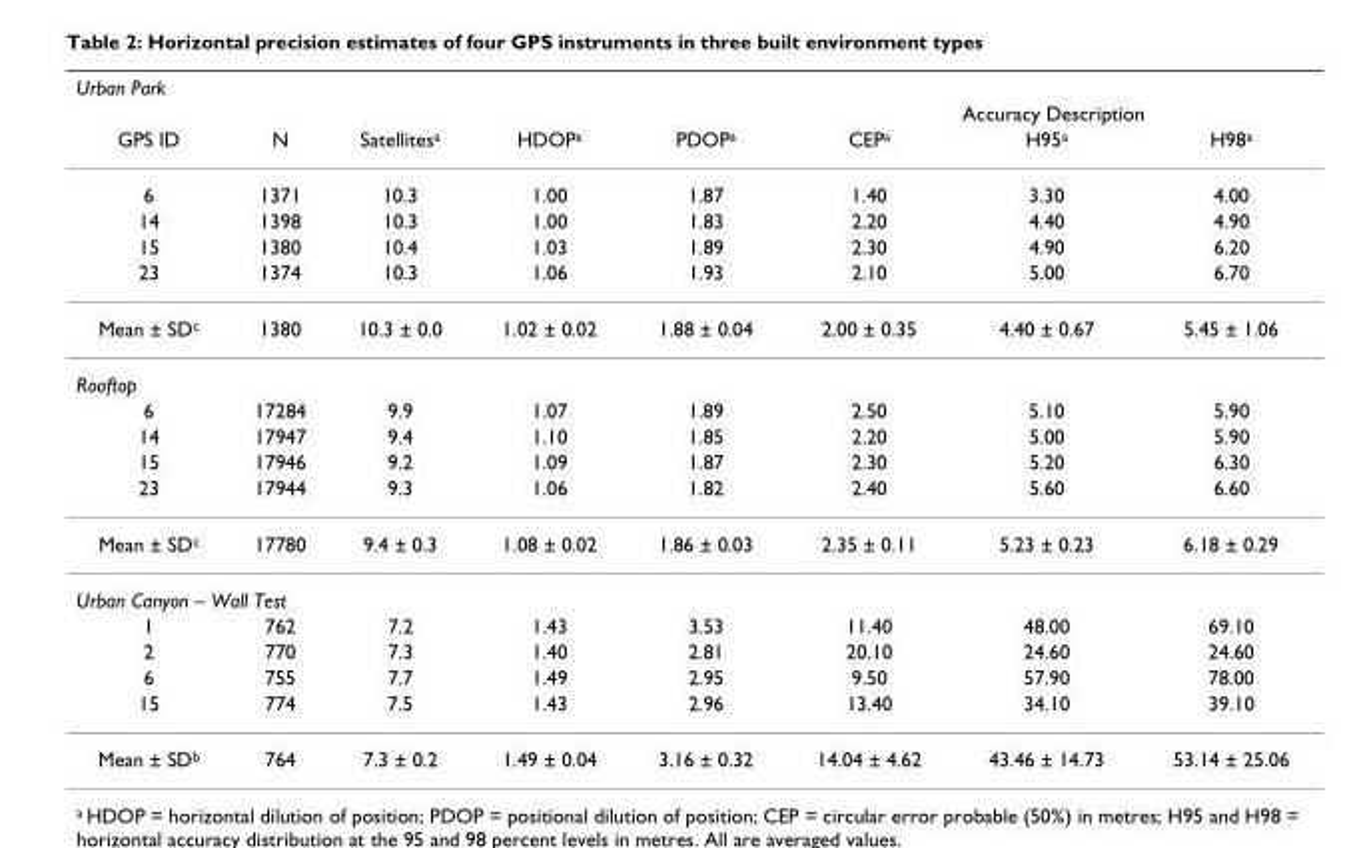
<table><thead><tr><td colspan="8">Urban Park</td></tr><tr><td rowspan="2">GPS ID</td><td rowspan="2">N</td><td rowspan="2">Satellites<sup>a</sup></td><td rowspan="2">HDOP<sup>a</sup></td><td rowspan="2">PDOP<sup>a</sup></td><td colspan="3">Accuracy Description</td></tr><tr><td>CEP<sup>a</sup></td><td>H95<sup>a</sup></td><td>H98<sup>a</sup></td></tr></thead><tbody><tr><td>6</td><td>1371</td><td>10.3</td><td>1.00</td><td>1.87</td><td>1.40</td><td>3.30</td><td>4.00</td></tr><tr><td>14</td><td>1398</td><td>10.3</td><td>1.00</td><td>1.83</td><td>2.20</td><td>4.40</td><td>4.90</td></tr><tr><td>15</td><td>1380</td><td>10.4</td><td>1.03</td><td>1.89</td><td>2.30</td><td>4.90</td><td>6.20</td></tr><tr><td>23</td><td>1374</td><td>10.3</td><td>1.06</td><td>1.93</td><td>2.10</td><td>5.00</td><td>6.70</td></tr><tr><td>Mean ± SD<sup>c</sup></td><td>1380</td><td>10.3 ± 0.0</td><td>1.02 ± 0.02</td><td>1.88 ± 0.04</td><td>2.00 ± 0.35</td><td>4.40 ± 0.67</td><td>5.45 ± 1.06</td></tr><tr><td colspan="8">Rooftop</td></tr><tr><td>6</td><td>17284</td><td>9.9</td><td>1.07</td><td>1.89</td><td>2.50</td><td>5.10</td><td>5.90</td></tr><tr><td>14</td><td>17947</td><td>9.4</td><td>1.10</td><td>1.85</td><td>2.20</td><td>5.00</td><td>5.90</td></tr><tr><td>15</td><td>17946</td><td>9.2</td><td>1.09</td><td>1.87</td><td>2.30</td><td>5.20</td><td>6.30</td></tr><tr><td>23</td><td>17944</td><td>9.3</td><td>1.06</td><td>1.82</td><td>2.40</td><td>5.60</td><td>6.60</td></tr><tr><td>Mean ± SD<sup>c</sup></td><td>17780</td><td>9.4 ± 0.3</td><td>1.08 ± 0.02</td><td>1.86 ± 0.03</td><td>2.35 ± 0.11</td><td>5.23 ± 0.23</td><td>6.18 ± 0.29</td></tr><tr><td colspan="8">Urban Canyon – Wall Test</td></tr><tr><td>1</td><td>762</td><td>7.2</td><td>1.43</td><td>3.53</td><td>11.40</td><td>48.00</td><td>69.10</td></tr><tr><td>2</td><td>770</td><td>7.3</td><td>1.40</td><td>2.81</td><td>20.10</td><td>24.60</td><td>24.60</td></tr><tr><td>6</td><td>755</td><td>7.7</td><td>1.49</td><td>2.95</td><td>9.50</td><td>57.90</td><td>78.00</td></tr><tr><td>15</td><td>774</td><td>7.5</td><td>1.43</td><td>2.96</td><td>13.40</td><td>34.10</td><td>39.10</td></tr><tr><td>Mean ± SD<sup>b</sup></td><td>764</td><td>7.3 ± 0.2</td><td>1.49 ± 0.04</td><td>3.16 ± 0.32</td><td>14.04 ± 4.62</td><td>43.46 ± 14.73</td><td>53.14 ± 25.06</td></tr></tbody></table>